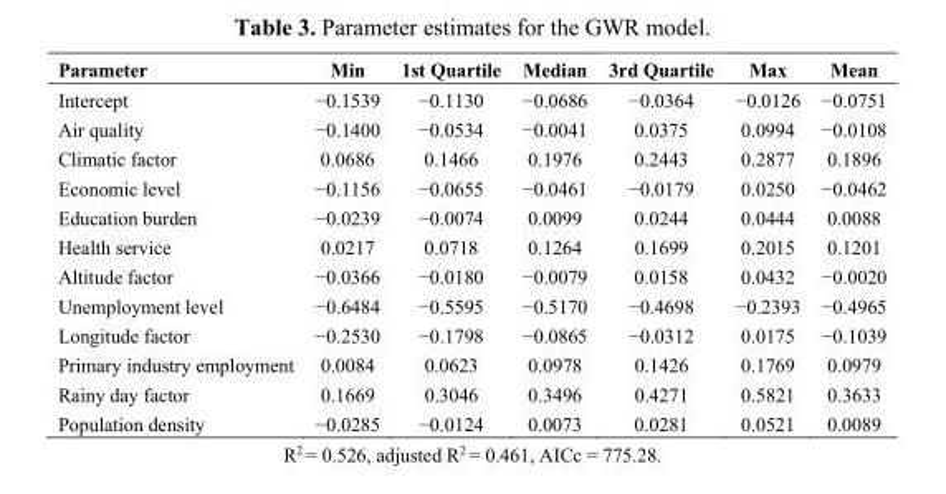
<table><thead><tr><td>Parameter</td><td>Min</td><td>1st Quartile</td><td>Median</td><td>3rd Quartile</td><td>Max</td><td>Mean</td></tr></thead><tbody><tr><td>Intercept</td><td>−0.1539</td><td>−0.1130</td><td>−0.0686</td><td>−0.0364</td><td>−0.0126</td><td>−0.0751</td></tr><tr><td>Air quality</td><td>−0.1400</td><td>−0.0534</td><td>−0.0041</td><td>0.0375</td><td>0.0994</td><td>−0.0108</td></tr><tr><td>Climatic factor</td><td>0.0686</td><td>0.1466</td><td>0.1976</td><td>0.2443</td><td>0.2877</td><td>0.1896</td></tr><tr><td>Economic level</td><td>−0.1156</td><td>−0.0655</td><td>−0.0461</td><td>−0.0179</td><td>0.0250</td><td>−0.0462</td></tr><tr><td>Education burden</td><td>−0.0239</td><td>−0.0074</td><td>0.0099</td><td>0.0244</td><td>0.0444</td><td>0.0088</td></tr><tr><td>Health service</td><td>0.0217</td><td>0.0718</td><td>0.1264</td><td>0.1699</td><td>0.2015</td><td>0.1201</td></tr><tr><td>Altitude factor</td><td>−0.0366</td><td>−0.0180</td><td>−0.0079</td><td>0.0158</td><td>0.0432</td><td>−0.0020</td></tr><tr><td>Unemployment level</td><td>−0.6484</td><td>−0.5595</td><td>−0.5170</td><td>−0.4698</td><td>−0.2393</td><td>−0.4965</td></tr><tr><td>Longitude factor</td><td>−0.2530</td><td>−0.1798</td><td>−0.0865</td><td>−0.0312</td><td>0.0175</td><td>−0.1039</td></tr><tr><td>Primary industry employment</td><td>0.0084</td><td>0.0623</td><td>0.0978</td><td>0.1426</td><td>0.1769</td><td>0.0979</td></tr><tr><td>Rainy day factor</td><td>0.1669</td><td>0.3046</td><td>0.3496</td><td>0.4271</td><td>0.5821</td><td>0.3633</td></tr><tr><td>Population density</td><td>−0.0285</td><td>−0.0124</td><td>0.0073</td><td>0.0281</td><td>0.0521</td><td>0.0089</td></tr></tbody></table>